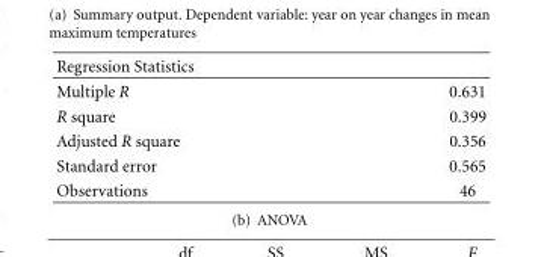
<table><thead><tr><td>Regression Statistics</td><td></td></tr></thead><tbody><tr><td>Multiple R</td><td>0.631</td></tr><tr><td>R square</td><td>0.399</td></tr><tr><td>Adjusted R square</td><td>0.356</td></tr><tr><td>Standard error</td><td>0.565</td></tr><tr><td>Observations</td><td>46</td></tr></tbody></table>